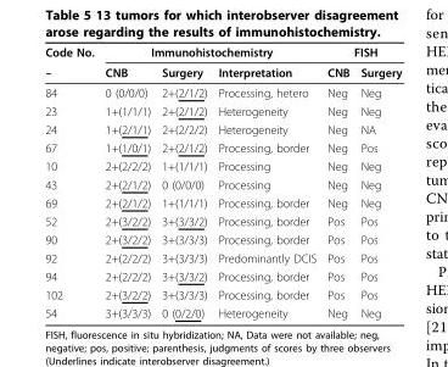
<table><thead><tr><td rowspan="2">Code No. –</td><td colspan="3">Immunohistochemistry</td><td colspan="2">FISH</td></tr><tr><td>CNB</td><td>Surgery</td><td>Interpretation</td><td>CNB</td><td>Surgery</td></tr></thead><tbody><tr><td>84</td><td>0 (0/0/0)</td><td>2+(2/1/2)</td><td>Processing, hetero</td><td>Neg</td><td>Neg</td></tr><tr><td>23</td><td>1+(1/1/1)</td><td>2+(2/1/2)</td><td>Heterogeneity</td><td>Neg</td><td>Neg</td></tr><tr><td>24</td><td>1+(2/1/1)</td><td>2+(2/2/2)</td><td>Heterogeneity</td><td>Neg</td><td>NA</td></tr><tr><td>67</td><td>1+(1/0/1)</td><td>2+(2/1/2)</td><td>Processing, border</td><td>Neg</td><td>Pos</td></tr><tr><td>10</td><td>2+(2/2/2)</td><td>1+(1/1/1)</td><td>Processing</td><td>Neg</td><td>Neg</td></tr><tr><td>43</td><td>2+(2/1/2)</td><td>0 (0/0/0)</td><td>Processing</td><td>Neg</td><td>Neg</td></tr><tr><td>69</td><td>2+(2/1/2)</td><td>1+(1/1/1)</td><td>Processing, border</td><td>Neg</td><td>Neg</td></tr><tr><td>52</td><td>2+(3/2/2)</td><td>3+(3/3/2)</td><td>Processing, border</td><td>Pos</td><td>Pos</td></tr><tr><td>90</td><td>2+(3/2/2)</td><td>3+(3/3/3)</td><td>Processing, border</td><td>Pos</td><td>Pos</td></tr><tr><td>92</td><td>2+(2/2/2)</td><td>3+(3/3/3)</td><td>Predominantly DCIS</td><td>Pos</td><td>Pos</td></tr><tr><td>94</td><td>2+(2/2/2)</td><td>3+(3/3/2)</td><td>Processing, border</td><td>Pos</td><td>Pos</td></tr><tr><td>102</td><td>2+(3/2/2)</td><td>3+(3/3/3)</td><td>Processing, border</td><td>Pos</td><td>Pos</td></tr><tr><td>54</td><td>3+(3/3/3)</td><td>0 (0/2/0)</td><td>Heterogeneity</td><td>Neg</td><td>Neg</td></tr></tbody></table>